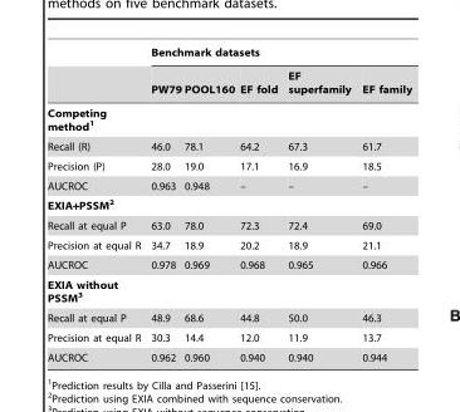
<table><thead><tr><td rowspan="2"></td><td colspan="5">Benchmark datasets</td></tr><tr><td>PW79</td><td>POOL160</td><td>EF fold</td><td>EF superfamily</td><td>EF family</td></tr></thead><tbody><tr><td colspan="6">Competing method1</td></tr><tr><td>Recall (R)</td><td>46.0</td><td>78.1</td><td>64.2</td><td>67.3</td><td>61.7</td></tr><tr><td>Precision (P)</td><td>28.0</td><td>19.0</td><td>17.1</td><td>16.9</td><td>18.5</td></tr><tr><td>AUCROC</td><td>0.963</td><td>0.948</td><td>–</td><td>–</td><td>–</td></tr><tr><td colspan="6">EXIA+PSSM2</td></tr><tr><td>Recall at equal P</td><td>63.0</td><td>78.0</td><td>72.3</td><td>72.4</td><td>69.0</td></tr><tr><td>Precision at equal R</td><td>34.7</td><td>18.9</td><td>20.2</td><td>18.9</td><td>21.1</td></tr><tr><td>AUCROC</td><td>0.978</td><td>0.969</td><td>0.968</td><td>0.965</td><td>0.966</td></tr><tr><td colspan="6">EXIA without PSSM3</td></tr><tr><td>Recall at equal P</td><td>48.9</td><td>68.6</td><td>44.8</td><td>50.0</td><td>46.3</td></tr><tr><td>Precision at equal R</td><td>30.3</td><td>14.4</td><td>12.0</td><td>11.9</td><td>13.7</td></tr><tr><td>AUCROC</td><td>0.962</td><td>0.960</td><td>0.940</td><td>0.940</td><td>0.944</td></tr></tbody></table>